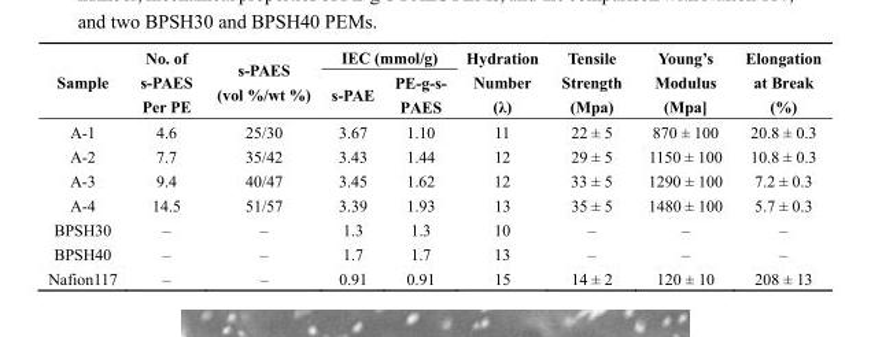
<table><thead><tr><td rowspan="2">Sample</td><td rowspan="2">No. of s-PAES Per PE</td><td rowspan="2">s-PAES (vol %/wt %)</td><td colspan="2">IEC (mmol/g)</td><td rowspan="2">Hydration Number (λ)</td><td rowspan="2">Tensile Strength (Mpa)</td><td rowspan="2">Young’s Modulus (Mpa]</td><td rowspan="2">Elongation at Break (%)</td></tr><tr><td>s-PAE</td><td>PE-g-s- PAES</td></tr></thead><tbody><tr><td>A-1</td><td>4.6</td><td>25/30</td><td>3.67</td><td>1.10</td><td>11</td><td>22 ± 5</td><td>870 ± 100</td><td>20.8 ± 0.3</td></tr><tr><td>A-2</td><td>7.7</td><td>35/42</td><td>3.43</td><td>1.44</td><td>12</td><td>29 ± 5</td><td>1150 ± 100</td><td>10.8 ± 0.3</td></tr><tr><td>A-3</td><td>9.4</td><td>40/47</td><td>3.45</td><td>1.62</td><td>12</td><td>33 ± 5</td><td>1290 ± 100</td><td>7.2 ± 0.3</td></tr><tr><td>A-4</td><td>14.5</td><td>51/57</td><td>3.39</td><td>1.93</td><td>13</td><td>35 ± 5</td><td>1480 ± 100</td><td>5.7 ± 0.3</td></tr><tr><td>BPSH30</td><td>–</td><td>–</td><td>1.3</td><td>1.3</td><td>10</td><td>–</td><td>–</td><td>–</td></tr><tr><td>BPSH40</td><td>–</td><td>–</td><td>1.7</td><td>1.7</td><td>13</td><td>–</td><td>–</td><td>–</td></tr><tr><td>Nafion117</td><td>–</td><td>–</td><td>0.91</td><td>0.91</td><td>15</td><td>14 ± 2</td><td>120 ± 10</td><td>208 ± 13</td></tr></tbody></table>